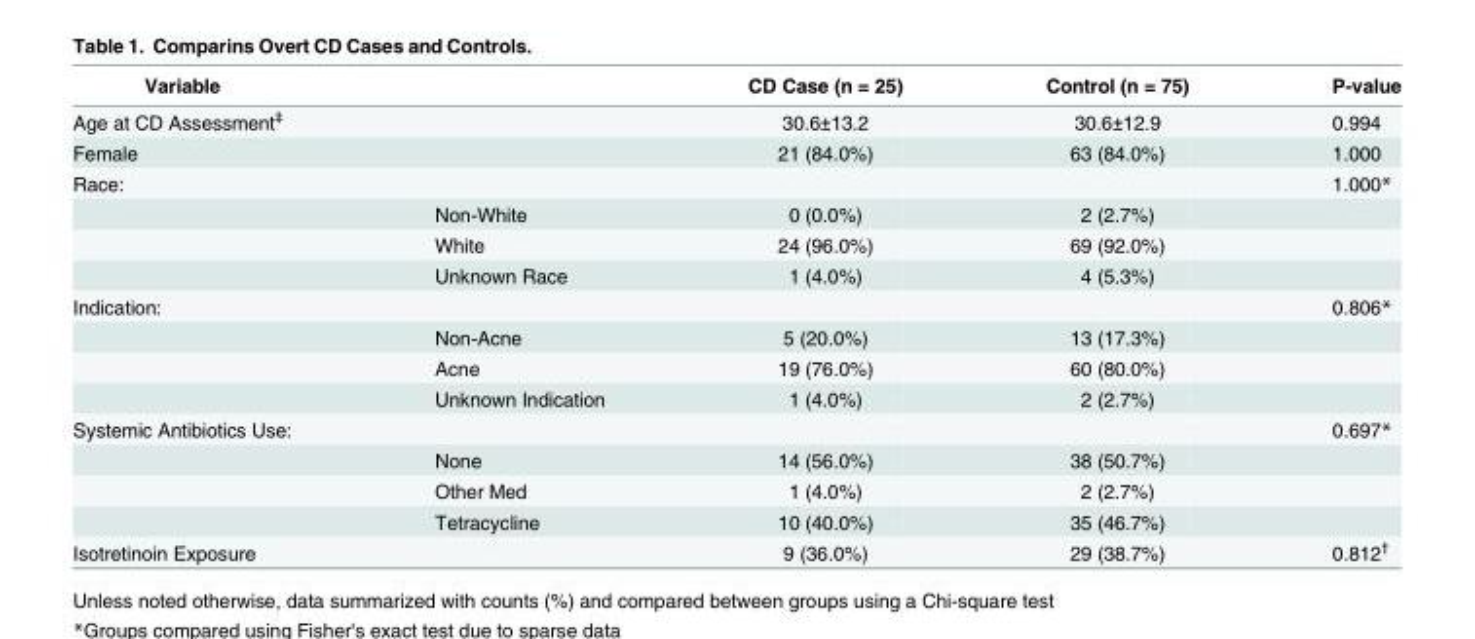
<table><thead><tr><td>Variable</td><td></td><td>CD Case (n = 25)</td><td>Control (n = 75)</td><td>P-value</td></tr></thead><tbody><tr><td>Age at CD Assessment<sup>‡</sup></td><td></td><td>30.6±13.2</td><td>30.6±12.9</td><td>0.994</td></tr><tr><td>Female</td><td></td><td>21 (84.0%)</td><td>63 (84.0%)</td><td>1.000</td></tr><tr><td rowspan="4">Race:</td><td></td><td></td><td></td><td>1.000*</td></tr><tr><td>Non-White</td><td>0 (0.0%)</td><td>2 (2.7%)</td><td></td></tr><tr><td>White</td><td>24 (96.0%)</td><td>69 (92.0%)</td><td></td></tr><tr><td>Unknown Race</td><td>1 (4.0%)</td><td>4 (5.3%)</td><td></td></tr><tr><td rowspan="4">Indication:</td><td></td><td></td><td></td><td>0.806*</td></tr><tr><td>Non-Acne</td><td>5 (20.0%)</td><td>13 (17.3%)</td><td></td></tr><tr><td>Acne</td><td>19 (76.0%)</td><td>60 (80.0%)</td><td></td></tr><tr><td>Unknown Indication</td><td>1 (4.0%)</td><td>2 (2.7%)</td><td></td></tr><tr><td rowspan="4">Systemic Antibiotics Use:</td><td></td><td></td><td></td><td>0.697*</td></tr><tr><td>None</td><td>14 (56.0%)</td><td>38 (50.7%)</td><td></td></tr><tr><td>Other Med</td><td>1 (4.0%)</td><td>2 (2.7%)</td><td></td></tr><tr><td>Tetracycline</td><td>10 (40.0%)</td><td>35 (46.7%)</td><td></td></tr><tr><td>Isotretinoin Exposure</td><td></td><td>9 (36.0%)</td><td>29 (38.7%)</td><td>0.812<sup>†</sup></td></tr></tbody></table>